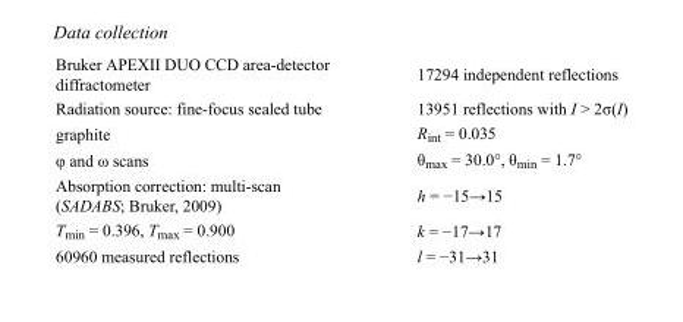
<table><tbody><tr><td>Bruker APEXII DUO CCD area-detector diffractometer</td><td>17294 independent reflections</td></tr><tr><td>Radiation source: fine-focus sealed tube</td><td>13951 reflections with I &gt; 2σ(I)</td></tr><tr><td>graphite</td><td>R<sub>int</sub> = 0.035</td></tr><tr><td>φ and ω scans</td><td>θ<sub>max</sub> = 30.0°, θ<sub>min</sub> = 1.7°</td></tr><tr><td>Absorption correction: multi-scan (SADABS; Bruker, 2009)</td><td>h = −15→15</td></tr><tr><td>T<sub>min</sub> = 0.396, T<sub>max</sub> = 0.900</td><td>k = −17→17</td></tr><tr><td>60960 measured reflections</td><td>l = −31→31</td></tr></tbody></table>